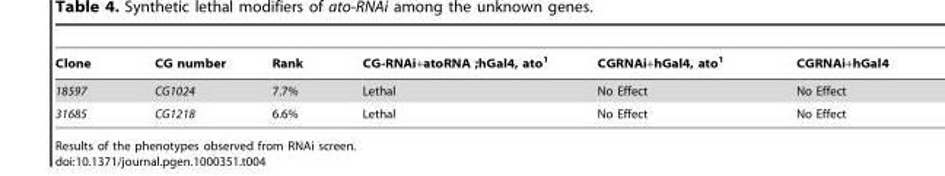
<table><thead><tr><td>Clone</td><td>CG number</td><td>Rank</td><td>CG-RNAi+atoRNA ;hGal4, ato<sup>1</sup></td><td>CGRNAi+hGal4, ato<sup>1</sup></td><td>CGRNAi+hGal4</td></tr></thead><tbody><tr><td>18597</td><td>CG1024</td><td>7.7%</td><td>Lethal</td><td>No Effect</td><td>No Effect</td></tr><tr><td>31685</td><td>CG1218</td><td>6.6%</td><td>Lethal</td><td>No Effect</td><td>No Effect</td></tr></tbody></table>